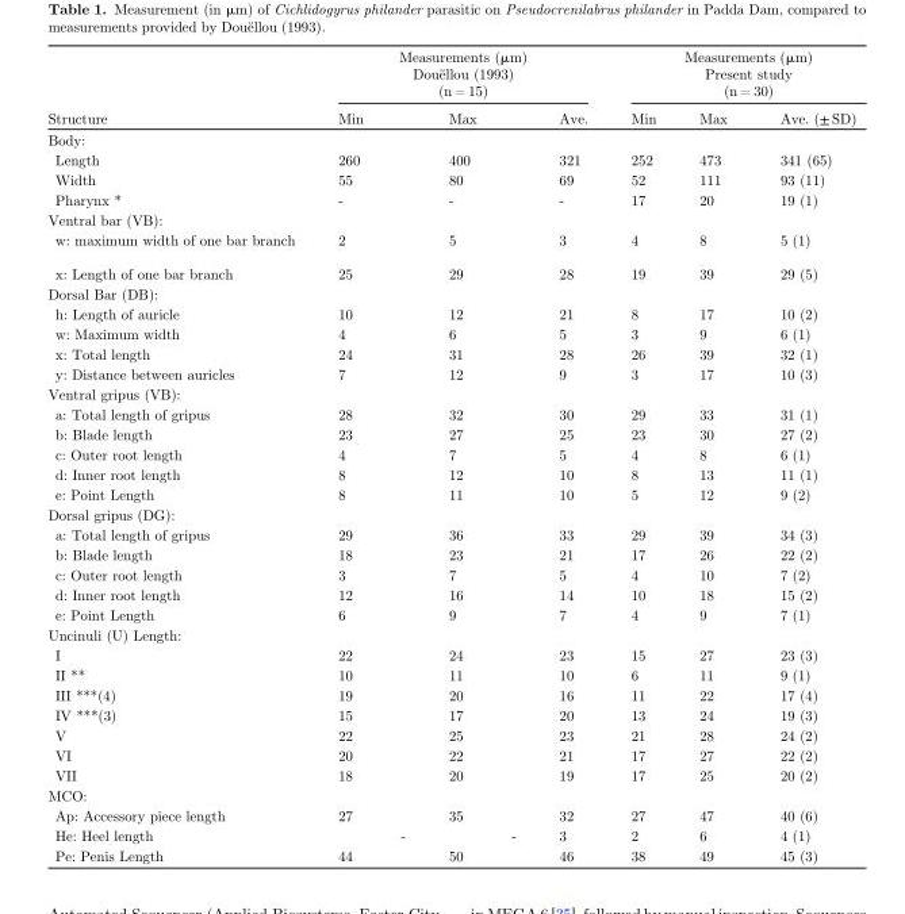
<table><thead><tr><td rowspan="2">Structure</td><td colspan="3">Measurements (μm) Douëllou (1993) (n = 15)</td><td colspan="3">Measurements (μm) Present study (n = 30)</td></tr><tr><td>Min</td><td>Max</td><td>Ave.</td><td>Min</td><td>Max</td><td>Ave. (± SD)</td></tr></thead><tbody><tr><td colspan="7">Body:</td></tr><tr><td>Length</td><td>260</td><td>400</td><td>321</td><td>252</td><td>473</td><td>341 (65)</td></tr><tr><td>Width</td><td>55</td><td>80</td><td>69</td><td>52</td><td>111</td><td>93 (11)</td></tr><tr><td>Pharynx *</td><td>-</td><td>-</td><td>-</td><td>17</td><td>20</td><td>19 (1)</td></tr><tr><td colspan="7">Ventral bar (VB):</td></tr><tr><td>w: maximum width of one bar branch</td><td>2</td><td>5</td><td>3</td><td>4</td><td>8</td><td>5 (1)</td></tr><tr><td>x: Length of one bar branch</td><td>25</td><td>29</td><td>28</td><td>19</td><td>39</td><td>29 (5)</td></tr><tr><td colspan="7">Dorsal Bar (DB):</td></tr><tr><td>h: Length of auricle</td><td>10</td><td>12</td><td>21</td><td>8</td><td>17</td><td>10 (2)</td></tr><tr><td>w: Maximum width</td><td>4</td><td>6</td><td>5</td><td>3</td><td>9</td><td>6 (1)</td></tr><tr><td>x: Total length</td><td>24</td><td>31</td><td>28</td><td>26</td><td>39</td><td>32 (1)</td></tr><tr><td>y: Distance between auricles</td><td>7</td><td>12</td><td>9</td><td>3</td><td>17</td><td>10 (3)</td></tr><tr><td colspan="7">Ventral gripus (VB):</td></tr><tr><td>a: Total length of gripus</td><td>28</td><td>32</td><td>30</td><td>29</td><td>33</td><td>31 (1)</td></tr><tr><td>b: Blade length</td><td>23</td><td>27</td><td>25</td><td>23</td><td>30</td><td>27 (2)</td></tr><tr><td>c: Outer root length</td><td>4</td><td>7</td><td>5</td><td>4</td><td>8</td><td>6 (1)</td></tr><tr><td>d: Inner root length</td><td>8</td><td>12</td><td>10</td><td>8</td><td>13</td><td>11 (1)</td></tr><tr><td>e: Point Length</td><td>8</td><td>11</td><td>10</td><td>5</td><td>12</td><td>9 (2)</td></tr><tr><td colspan="7">Dorsal gripus (DG):</td></tr><tr><td>a: Total length of gripus</td><td>29</td><td>36</td><td>33</td><td>29</td><td>39</td><td>34 (3)</td></tr><tr><td>b: Blade length</td><td>18</td><td>23</td><td>21</td><td>17</td><td>26</td><td>22 (2)</td></tr><tr><td>c: Outer root length</td><td>3</td><td>7</td><td>5</td><td>4</td><td>10</td><td>7 (2)</td></tr><tr><td>d: Inner root length</td><td>12</td><td>16</td><td>14</td><td>10</td><td>18</td><td>15 (2)</td></tr><tr><td>e: Point Length</td><td>6</td><td>9</td><td>7</td><td>4</td><td>9</td><td>7 (1)</td></tr><tr><td colspan="7">Uncinuli (U) Length:</td></tr><tr><td>I</td><td>22</td><td>24</td><td>23</td><td>15</td><td>27</td><td>23 (3)</td></tr><tr><td>II **</td><td>10</td><td>11</td><td>10</td><td>6</td><td>11</td><td>9 (1)</td></tr><tr><td>III ***(4)</td><td>19</td><td>20</td><td>16</td><td>11</td><td>22</td><td>17 (4)</td></tr><tr><td>IV ***(3)</td><td>15</td><td>17</td><td>20</td><td>13</td><td>24</td><td>19 (3)</td></tr><tr><td>V</td><td>22</td><td>25</td><td>23</td><td>21</td><td>28</td><td>24 (2)</td></tr><tr><td>VI</td><td>20</td><td>22</td><td>21</td><td>17</td><td>27</td><td>22 (2)</td></tr><tr><td>VII</td><td>18</td><td>20</td><td>19</td><td>17</td><td>25</td><td>20 (2)</td></tr><tr><td colspan="7">MCO:</td></tr><tr><td>Ap: Accessory piece length</td><td>27</td><td>35</td><td>32</td><td>27</td><td>47</td><td>40 (6)</td></tr><tr><td>He: Heel length</td><td>-</td><td>-</td><td>3</td><td>2</td><td>6</td><td>4 (1)</td></tr><tr><td>Pe: Penis Length</td><td>44</td><td>50</td><td>46</td><td>38</td><td>49</td><td>45 (3)</td></tr></tbody></table>